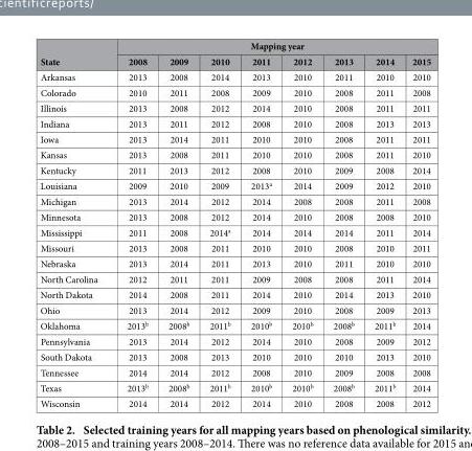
<table><thead><tr><td rowspan="2">State</td><td colspan="8">Mapping year</td></tr><tr><td>2008</td><td>2009</td><td>2010</td><td>2011</td><td>2012</td><td>2013</td><td>2014</td><td>2015</td></tr></thead><tbody><tr><td>Arkansas</td><td>2013</td><td>2008</td><td>2014</td><td>2013</td><td>2010</td><td>2011</td><td>2010</td><td>2010</td></tr><tr><td>Colorado</td><td>2010</td><td>2011</td><td>2008</td><td>2009</td><td>2010</td><td>2008</td><td>2011</td><td>2008</td></tr><tr><td>Illinois</td><td>2013</td><td>2008</td><td>2012</td><td>2014</td><td>2010</td><td>2008</td><td>2011</td><td>2011</td></tr><tr><td>Indiana</td><td>2013</td><td>2011</td><td>2012</td><td>2008</td><td>2010</td><td>2008</td><td>2013</td><td>2013</td></tr><tr><td>Iowa</td><td>2013</td><td>2014</td><td>2011</td><td>2010</td><td>2010</td><td>2008</td><td>2011</td><td>2011</td></tr><tr><td>Kansas</td><td>2013</td><td>2008</td><td>2011</td><td>2010</td><td>2010</td><td>2008</td><td>2011</td><td>2010</td></tr><tr><td>Kentucky</td><td>2011</td><td>2013</td><td>2012</td><td>2008</td><td>2010</td><td>2009</td><td>2008</td><td>2014</td></tr><tr><td>Louisiana</td><td>2009</td><td>2010</td><td>2009</td><td>2013<sup>a</sup></td><td>2014</td><td>2009</td><td>2012</td><td>2010</td></tr><tr><td>Michigan</td><td>2013</td><td>2014</td><td>2012</td><td>2014</td><td>2008</td><td>2008</td><td>2011</td><td>2008</td></tr><tr><td>Minnesota</td><td>2013</td><td>2008</td><td>2012</td><td>2014</td><td>2010</td><td>2008</td><td>2008</td><td>2010</td></tr><tr><td>Mississippi</td><td>2011</td><td>2008</td><td>2014<sup>a</sup></td><td>2014</td><td>2014</td><td>2014</td><td>2011</td><td>2014</td></tr><tr><td>Missouri</td><td>2013</td><td>2008</td><td>2011</td><td>2010</td><td>2010</td><td>2008</td><td>2010</td><td>2011</td></tr><tr><td>Nebraska</td><td>2013</td><td>2014</td><td>2011</td><td>2013</td><td>2010</td><td>2011</td><td>2010</td><td>2010</td></tr><tr><td>North Carolina</td><td>2012</td><td>2011</td><td>2011</td><td>2009</td><td>2008</td><td>2008</td><td>2011</td><td>2014</td></tr><tr><td>North Dakota</td><td>2014</td><td>2008</td><td>2011</td><td>2014</td><td>2010</td><td>2014</td><td>2013</td><td>2010</td></tr><tr><td>Ohio</td><td>2013</td><td>2014</td><td>2012</td><td>2009</td><td>2010</td><td>2008</td><td>2009</td><td>2013</td></tr><tr><td>Oklahoma</td><td>2013<sup>b</sup></td><td>2008<sup>b</sup></td><td>2011<sup>b</sup></td><td>2010<sup>b</sup></td><td>2010<sup>b</sup></td><td>2008<sup>b</sup></td><td>2011<sup>b</sup></td><td>2014</td></tr><tr><td>Pennsylvania</td><td>2013</td><td>2014</td><td>2012</td><td>2014</td><td>2010</td><td>2008</td><td>2009</td><td>2012</td></tr><tr><td>South Dakota</td><td>2013</td><td>2008</td><td>2013</td><td>2010</td><td>2010</td><td>2010</td><td>2013</td><td>2010</td></tr><tr><td>Tennessee</td><td>2014</td><td>2014</td><td>2012</td><td>2008</td><td>2010</td><td>2009</td><td>2008</td><td>2008</td></tr><tr><td>Texas</td><td>2013<sup>b</sup></td><td>2008<sup>b</sup></td><td>2011<sup>b</sup></td><td>2010<sup>b</sup></td><td>2010<sup>b</sup></td><td>2008<sup>b</sup></td><td>2011<sup>b</sup></td><td>2014</td></tr><tr><td>Wisconsin</td><td>2014</td><td>2014</td><td>2012</td><td>2014</td><td>2010</td><td>2008</td><td>2008</td><td>2012</td></tr></tbody></table>